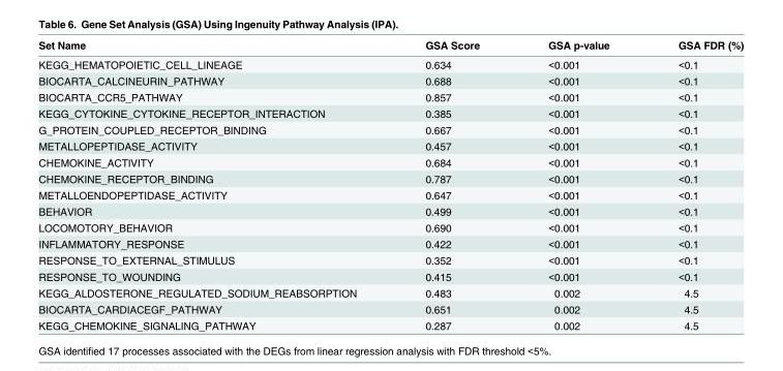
<table><thead><tr><td>Set Name</td><td>GSA Score</td><td>GSA p-value</td><td>GSA FDR (%)</td></tr></thead><tbody><tr><td>KEGG_HEMATOPOIETIC_CELL_LINEAGE</td><td>0.634</td><td>&lt;0.001</td><td>&lt;0.1</td></tr><tr><td>BIOCARTA_CALCINEURIN_PATHWAY</td><td>0.688</td><td>&lt;0.001</td><td>&lt;0.1</td></tr><tr><td>BIOCARTA_CCR5_PATHWAY</td><td>0.857</td><td>&lt;0.001</td><td>&lt;0.1</td></tr><tr><td>KEGG_CYTOKINE_CYTOKINE_RECEPTOR_INTERACTION</td><td>0.385</td><td>&lt;0.001</td><td>&lt;0.1</td></tr><tr><td>G_PROTEIN_COUPLED_RECEPTOR_BINDING</td><td>0.667</td><td>&lt;0.001</td><td>&lt;0.1</td></tr><tr><td>METALLOPEPTIDASE_ACTIVITY</td><td>0.457</td><td>&lt;0.001</td><td>&lt;0.1</td></tr><tr><td>CHEMOKINE_ACTIVITY</td><td>0.684</td><td>&lt;0.001</td><td>&lt;0.1</td></tr><tr><td>CHEMOKINE_RECEPTOR_BINDING</td><td>0.787</td><td>&lt;0.001</td><td>&lt;0.1</td></tr><tr><td>METALLOENDOPEPTIDASE_ACTIVITY</td><td>0.647</td><td>&lt;0.001</td><td>&lt;0.1</td></tr><tr><td>BEHAVIOR</td><td>0.499</td><td>&lt;0.001</td><td>&lt;0.1</td></tr><tr><td>LOCOMOTORY_BEHAVIOR</td><td>0.690</td><td>&lt;0.001</td><td>&lt;0.1</td></tr><tr><td>INFLAMMATORY_RESPONSE</td><td>0.422</td><td>&lt;0.001</td><td>&lt;0.1</td></tr><tr><td>RESPONSE_TO_EXTERNAL_STIMULUS</td><td>0.352</td><td>&lt;0.001</td><td>&lt;0.1</td></tr><tr><td>RESPONSE_TO_WOUNDING</td><td>0.415</td><td>&lt;0.001</td><td>&lt;0.1</td></tr><tr><td>KEGG_ALDOSTERONE_REGULATED_SODIUM_REABSORPTION</td><td>0.483</td><td>0.002</td><td>4.5</td></tr><tr><td>BIOCARTA_CARDIACEGF_PATHWAY</td><td>0.651</td><td>0.002</td><td>4.5</td></tr><tr><td>KEGG_CHEMOKINE_SIGNALING_PATHWAY</td><td>0.287</td><td>0.002</td><td>4.5</td></tr></tbody></table>